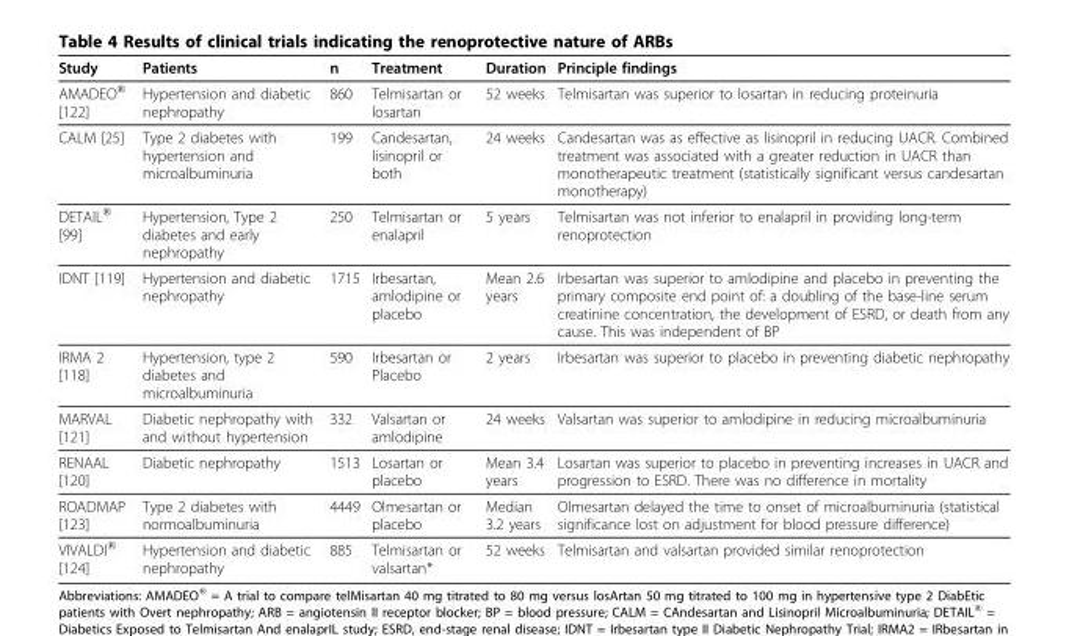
<table><thead><tr><td>Study</td><td>Patients</td><td>n</td><td>Treatment</td><td>Duration</td><td>Principle findings</td></tr></thead><tbody><tr><td>AMADEO<sup>®</sup> [122]</td><td>Hypertension and diabetic nephropathy</td><td>860</td><td>Telmisartan or losartan</td><td>52 weeks</td><td>Telmisartan was superior to losartan in reducing proteinuria</td></tr><tr><td>CALM [25]</td><td>Type 2 diabetes with hypertension and microalbuminuria</td><td>199</td><td>Candesartan, lisinopril or both</td><td>24 weeks</td><td>Candesartan was as effective as lisinopril in reducing UACR. Combined treatment was associated with a greater reduction in UACR than monotherapeutic treatment (statistically significant versus candesartan monotherapy)</td></tr><tr><td>DETAIL<sup>®</sup> [99]</td><td>Hypertension, Type 2 diabetes and early nephropathy</td><td>250</td><td>Telmisartan or enalapril</td><td>5 years</td><td>Telmisartan was not inferior to enalapril in providing long-term renoprotection</td></tr><tr><td>IDNT [119]</td><td>Hypertension and diabetic nephropathy</td><td>1715</td><td>Irbesartan, amlodipine or placebo</td><td>Mean 2.6 years</td><td>Irbesartan was superior to amlodipine and placebo in preventing the primary composite end point of: a doubling of the base-line serum creatinine concentration, the development of ESRD, or death from any cause. This was independent of BP</td></tr><tr><td>IRMA 2 [118]</td><td>Hypertension, type 2 diabetes and microalbuminuria</td><td>590</td><td>Irbesartan or Placebo</td><td>2 years</td><td>Irbesartan was superior to placebo in preventing diabetic nephropathy</td></tr><tr><td>MARVAL [121]</td><td>Diabetic nephropathy with and without hypertension</td><td>332</td><td>Valsartan or amlodipine</td><td>24 weeks</td><td>Valsartan was superior to amlodipine in reducing microalbuminuria</td></tr><tr><td>RENAAL [120]</td><td>Diabetic nephropathy</td><td>1513</td><td>Losartan or placebo</td><td>Mean 3.4 years</td><td>Losartan was superior to placebo in preventing increases in UACR and progression to ESRD. There was no difference in mortality</td></tr><tr><td>ROADMAP [123]</td><td>Type 2 diabetes with normoalbuminuria</td><td>4449</td><td>Olmesartan or placebo</td><td>Median 3.2 years</td><td>Olmesartan delayed the time to onset of microalbuminuria (statistical significance lost on adjustment for blood pressure difference)</td></tr><tr><td>VIVALDI<sup>®</sup> [124]</td><td>Hypertension and diabetic nephropathy</td><td>885</td><td>Telmisartan or valsartan*</td><td>52 weeks</td><td>Telmisartan and valsartan provided similar renoprotection</td></tr></tbody></table>